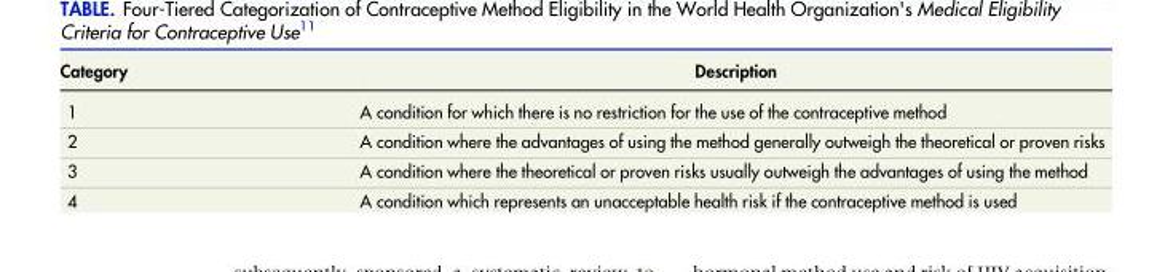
<table><thead><tr><td>Category</td><td>Description</td></tr></thead><tbody><tr><td>1</td><td>A condition for which there is no restriction for the use of the contraceptive method</td></tr><tr><td>2</td><td>A condition where the advantages of using the method generally outweigh the theoretical or proven risks</td></tr><tr><td>3</td><td>A condition where the theoretical or proven risks usually outweigh the advantages of using the method</td></tr><tr><td>4</td><td>A condition which represents an unacceptable health risk if the contraceptive method is used</td></tr></tbody></table>